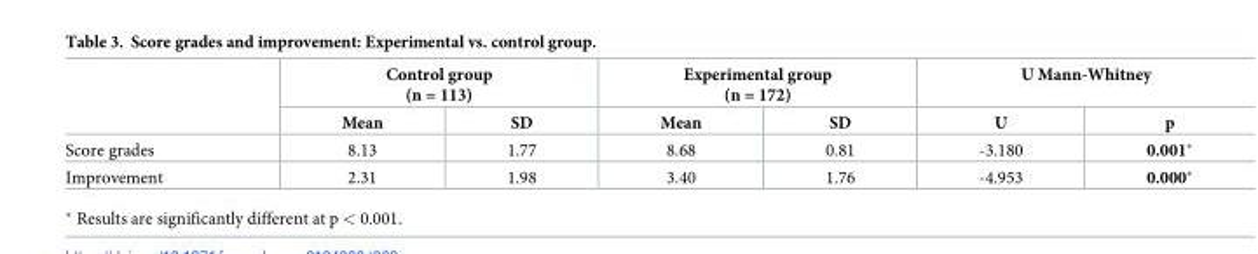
<table><thead><tr><td rowspan="2"></td><td colspan="2">Control group (n = 113)</td><td colspan="2">Experimental group (n = 172)</td><td colspan="2">U Mann-Whitney</td></tr><tr><td>Mean</td><td>SD</td><td>Mean</td><td>SD</td><td>U</td><td>p</td></tr></thead><tbody><tr><td>Score grades</td><td>8.13</td><td>1.77</td><td>8.68</td><td>0.81</td><td>-3.180</td><td>0.001*</td></tr><tr><td>Improvement</td><td>2.31</td><td>1.98</td><td>3.40</td><td>1.76</td><td>-4.953</td><td>0.000*</td></tr></tbody></table>